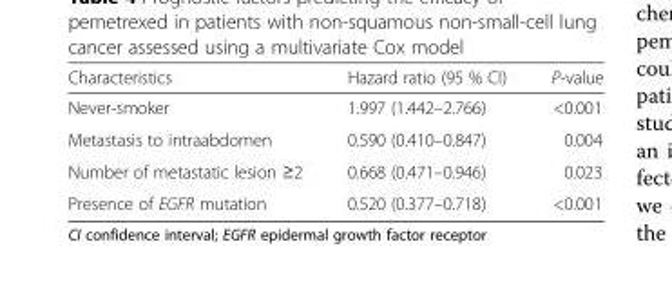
<table><thead><tr><td>Characteristics</td><td>Hazard ratio (95 % CI)</td><td>P-value</td></tr></thead><tbody><tr><td>Never-smoker</td><td>1.997 (1.442–2.766)</td><td>&lt;0.001</td></tr><tr><td>Metastasis to intraabdomen</td><td>0.590 (0.410–0.847)</td><td>0.004</td></tr><tr><td>Number of metastatic lesion ≥2</td><td>0.668 (0.471–0.946)</td><td>0.023</td></tr><tr><td>Presence of EGFR mutation</td><td>0.520 (0.377–0.718)</td><td>&lt;0.001</td></tr></tbody></table>